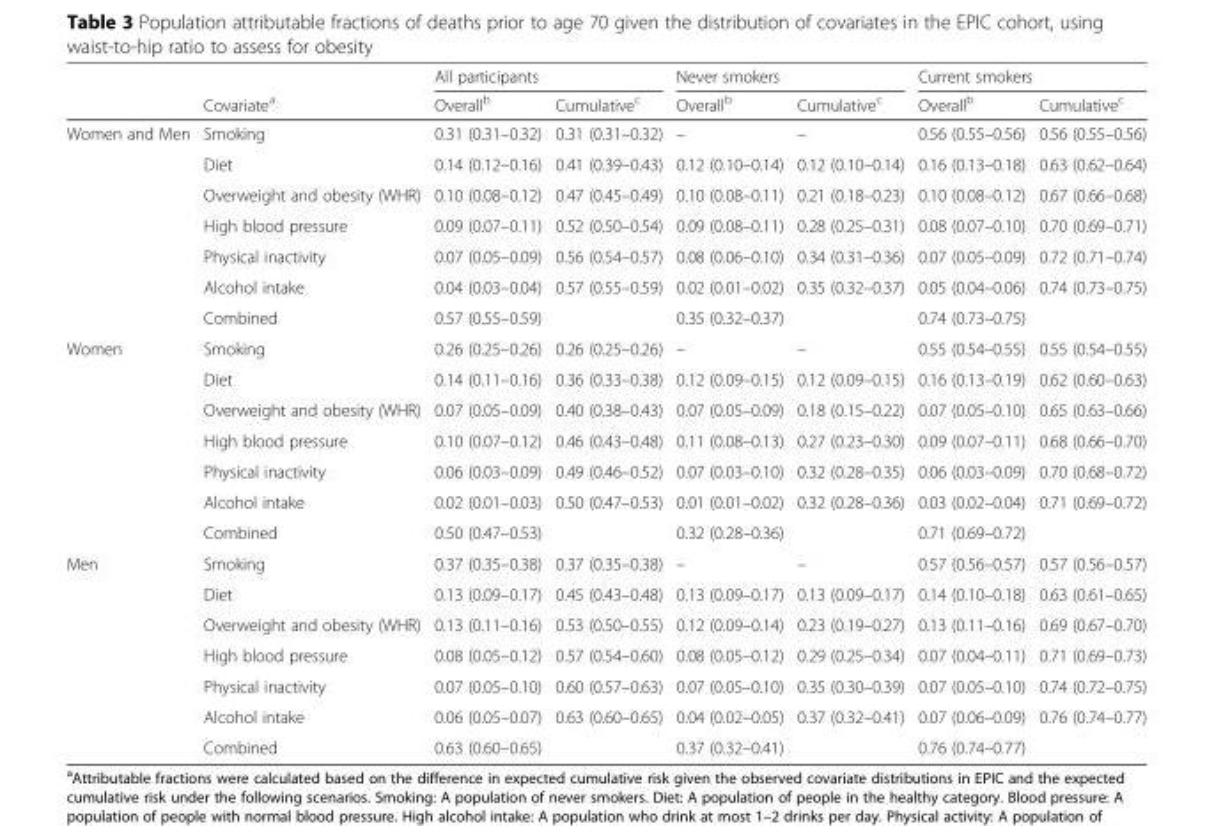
<table><thead><tr><td rowspan="2"></td><td rowspan="2">Covariate<sup>a</sup></td><td colspan="2">All participants</td><td colspan="2">Never smokers</td><td colspan="2">Current smokers</td></tr><tr><td>Overall<sup>b</sup></td><td>Cumulative<sup>c</sup></td><td>Overall<sup>b</sup></td><td>Cumulative<sup>c</sup></td><td>Overall<sup>b</sup></td><td>Cumulative<sup>c</sup></td></tr></thead><tbody><tr><td rowspan="7">Women and Men</td><td>Smoking</td><td>0.31 (0.31–0.32)</td><td>0.31 (0.31–0.32)</td><td>–</td><td>–</td><td>0.56 (0.55–0.56)</td><td>0.56 (0.55–0.56)</td></tr><tr><td>Diet</td><td>0.14 (0.12–0.16)</td><td>0.41 (0.39–0.43)</td><td>0.12 (0.10–0.14)</td><td>0.12 (0.10–0.14)</td><td>0.16 (0.13–0.18)</td><td>0.63 (0.62–0.64)</td></tr><tr><td>Overweight and obesity (WHR)</td><td>0.10 (0.08–0.12)</td><td>0.47 (0.45–0.49)</td><td>0.10 (0.08–0.11)</td><td>0.21 (0.18–0.23)</td><td>0.10 (0.08–0.12)</td><td>0.67 (0.66–0.68)</td></tr><tr><td>High blood pressure</td><td>0.09 (0.07–0.11)</td><td>0.52 (0.50–0.54)</td><td>0.09 (0.08–0.11)</td><td>0.28 (0.25–0.31)</td><td>0.08 (0.07–0.10)</td><td>0.70 (0.69–0.71)</td></tr><tr><td>Physical inactivity</td><td>0.07 (0.05–0.09)</td><td>0.56 (0.54–0.57)</td><td>0.08 (0.06–0.10)</td><td>0.34 (0.31–0.36)</td><td>0.07 (0.05–0.09)</td><td>0.72 (0.71–0.74)</td></tr><tr><td>Alcohol intake</td><td>0.04 (0.03–0.04)</td><td>0.57 (0.55–0.59)</td><td>0.02 (0.01–0.02)</td><td>0.35 (0.32–0.37)</td><td>0.05 (0.04–0.06)</td><td>0.74 (0.73–0.75)</td></tr><tr><td>Combined</td><td>0.57 (0.55–0.59)</td><td></td><td>0.35 (0.32–0.37)</td><td></td><td>0.74 (0.73–0.75)</td><td></td></tr><tr><td rowspan="7">Women</td><td>Smoking</td><td>0.26 (0.25–0.26)</td><td>0.26 (0.25–0.26)</td><td>–</td><td>–</td><td>0.55 (0.54–0.55)</td><td>0.55 (0.54–0.55)</td></tr><tr><td>Diet</td><td>0.14 (0.11–0.16)</td><td>0.36 (0.33–0.38)</td><td>0.12 (0.09–0.15)</td><td>0.12 (0.09–0.15)</td><td>0.16 (0.13–0.19)</td><td>0.62 (0.60–0.63)</td></tr><tr><td>Overweight and obesity (WHR)</td><td>0.07 (0.05–0.09)</td><td>0.40 (0.38–0.43)</td><td>0.07 (0.05–0.09)</td><td>0.18 (0.15–0.22)</td><td>0.07 (0.05–0.10)</td><td>0.65 (0.63–0.66)</td></tr><tr><td>High blood pressure</td><td>0.10 (0.07–0.12)</td><td>0.46 (0.43–0.48)</td><td>0.11 (0.08–0.13)</td><td>0.27 (0.23–0.30)</td><td>0.09 (0.07–0.11)</td><td>0.68 (0.66–0.70)</td></tr><tr><td>Physical inactivity</td><td>0.06 (0.03–0.09)</td><td>0.49 (0.46–0.52)</td><td>0.07 (0.03–0.10)</td><td>0.32 (0.28–0.35)</td><td>0.06 (0.03–0.09)</td><td>0.70 (0.68–0.72)</td></tr><tr><td>Alcohol intake</td><td>0.02 (0.01–0.03)</td><td>0.50 (0.47–0.53)</td><td>0.01 (0.01–0.02)</td><td>0.32 (0.28–0.36)</td><td>0.03 (0.02–0.04)</td><td>0.71 (0.69–0.72)</td></tr><tr><td>Combined</td><td>0.50 (0.47–0.53)</td><td></td><td>0.32 (0.28–0.36)</td><td></td><td>0.71 (0.69–0.72)</td><td></td></tr><tr><td rowspan="7">Men</td><td>Smoking</td><td>0.37 (0.35–0.38)</td><td>0.37 (0.35–0.38)</td><td>–</td><td>–</td><td>0.57 (0.56–0.57)</td><td>0.57 (0.56–0.57)</td></tr><tr><td>Diet</td><td>0.13 (0.09–0.17)</td><td>0.45 (0.43–0.48)</td><td>0.13 (0.09–0.17)</td><td>0.13 (0.09–0.17)</td><td>0.14 (0.10–0.18)</td><td>0.63 (0.61–0.65)</td></tr><tr><td>Overweight and obesity (WHR)</td><td>0.13 (0.11–0.16)</td><td>0.53 (0.50–0.55)</td><td>0.12 (0.09–0.14)</td><td>0.23 (0.19–0.27)</td><td>0.13 (0.11–0.16)</td><td>0.69 (0.67–0.70)</td></tr><tr><td>High blood pressure</td><td>0.08 (0.05–0.12)</td><td>0.57 (0.54–0.60)</td><td>0.08 (0.05–0.12)</td><td>0.29 (0.25–0.34)</td><td>0.07 (0.04–0.11)</td><td>0.71 (0.69–0.73)</td></tr><tr><td>Physical inactivity</td><td>0.07 (0.05–0.10)</td><td>0.60 (0.57–0.63)</td><td>0.07 (0.05–0.10)</td><td>0.35 (0.30–0.39)</td><td>0.07 (0.05–0.10)</td><td>0.74 (0.72–0.75)</td></tr><tr><td>Alcohol intake</td><td>0.06 (0.05–0.07)</td><td>0.63 (0.60–0.65)</td><td>0.04 (0.02–0.05)</td><td>0.37 (0.32–0.41)</td><td>0.07 (0.06–0.09)</td><td>0.76 (0.74–0.77)</td></tr><tr><td>Combined</td><td>0.63 (0.60–0.65)</td><td></td><td>0.37 (0.32–0.41)</td><td></td><td>0.76 (0.74–0.77)</td><td></td></tr></tbody></table>